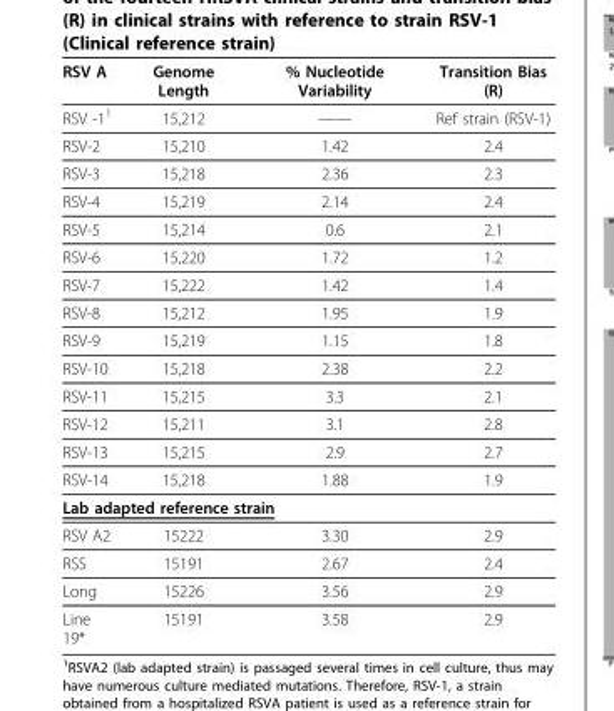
<table><thead><tr><td>RSV A</td><td>Genome Length</td><td>% Nucleotide Variability</td><td>Transition Bias (R)</td></tr></thead><tbody><tr><td>RSV -1<sup>1</sup></td><td>15,212</td><td>——</td><td>Ref strain (RSV-1)</td></tr><tr><td>RSV-2</td><td>15,210</td><td>1.42</td><td>2.4</td></tr><tr><td>RSV-3</td><td>15,218</td><td>2.36</td><td>2.3</td></tr><tr><td>RSV-4</td><td>15,219</td><td>2.14</td><td>2.4</td></tr><tr><td>RSV-5</td><td>15,214</td><td>0.6</td><td>2.1</td></tr><tr><td>RSV-6</td><td>15,220</td><td>1.72</td><td>1.2</td></tr><tr><td>RSV-7</td><td>15,222</td><td>1.42</td><td>1.4</td></tr><tr><td>RSV-8</td><td>15,212</td><td>1.95</td><td>1.9</td></tr><tr><td>RSV-9</td><td>15,219</td><td>1.15</td><td>1.8</td></tr><tr><td>RSV-10</td><td>15,218</td><td>2.38</td><td>2.2</td></tr><tr><td>RSV-11</td><td>15,215</td><td>3.3</td><td>2.1</td></tr><tr><td>RSV-12</td><td>15,211</td><td>3.1</td><td>2.8</td></tr><tr><td>RSV-13</td><td>15,215</td><td>2.9</td><td>2.7</td></tr><tr><td>RSV-14</td><td>15,218</td><td>1.88</td><td>1.9</td></tr><tr><td colspan="4">Lab adapted reference strain</td></tr><tr><td>RSV A2</td><td>15222</td><td>3.30</td><td>2.9</td></tr><tr><td>RSS</td><td>15191</td><td>2.67</td><td>2.4</td></tr><tr><td>Long</td><td>15226</td><td>3.56</td><td>2.9</td></tr><tr><td>Line 19*</td><td>15191</td><td>3.58</td><td>2.9</td></tr></tbody></table>